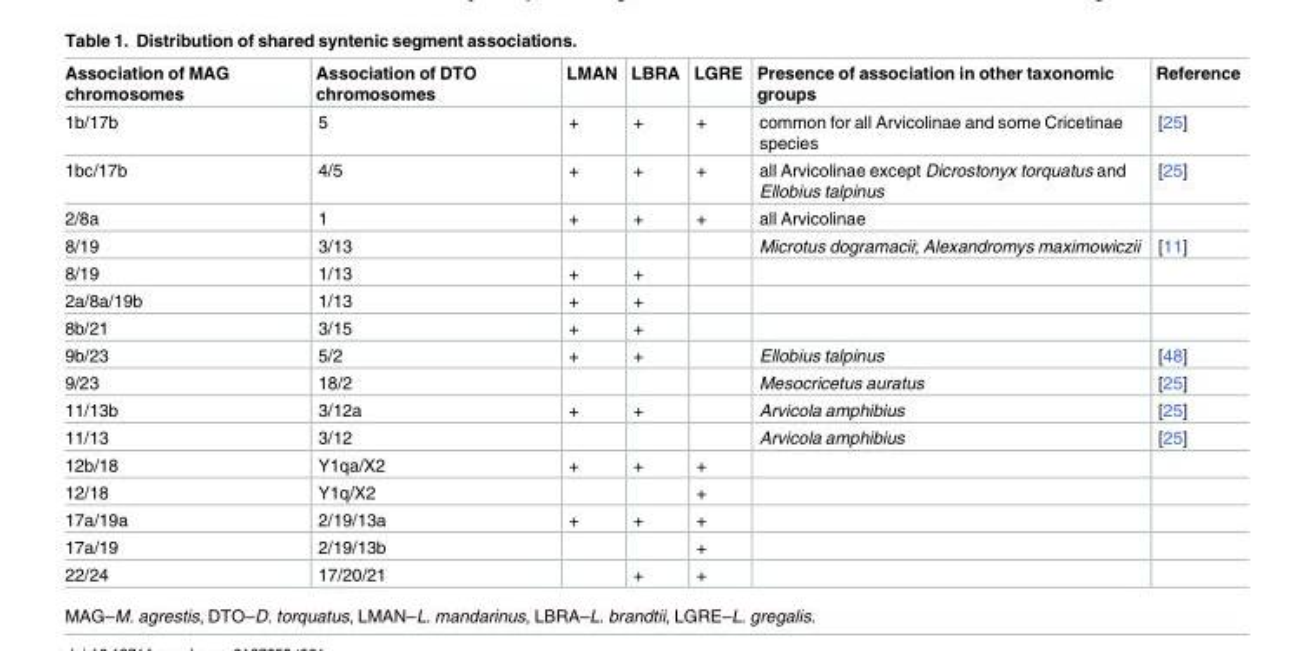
<table><thead><tr><td>Association of MAG chromosomes</td><td>Association of DTO chromosomes</td><td>LMAN</td><td>LBRA</td><td>LGRE</td><td>Presence of association in other taxonomic groups</td><td>Reference</td></tr></thead><tbody><tr><td>1b/17b</td><td>5</td><td>+</td><td>+</td><td>+</td><td>common for all Arvicolinae and some Cricetinae species</td><td>[25]</td></tr><tr><td>1bc/17b</td><td>4/5</td><td>+</td><td>+</td><td>+</td><td>all Arvicolinae except Dicrostonyx torquatus and Ellobius talpinus</td><td>[25]</td></tr><tr><td>2/8a</td><td>1</td><td>+</td><td>+</td><td>+</td><td>all Arvicolinae</td><td></td></tr><tr><td>8/19</td><td>3/13</td><td></td><td></td><td></td><td>Microtus dogramacii; Alexandromys maximowiczii</td><td>[11]</td></tr><tr><td>8/19</td><td>1/13</td><td>+</td><td>+</td><td></td><td></td><td></td></tr><tr><td>2a/8a/19b</td><td>1/13</td><td>+</td><td>+</td><td></td><td></td><td></td></tr><tr><td>8b/21</td><td>3/15</td><td>+</td><td>+</td><td></td><td></td><td></td></tr><tr><td>9b/23</td><td>5/2</td><td>+</td><td>+</td><td></td><td>Ellobius talpinus</td><td>[48]</td></tr><tr><td>9/23</td><td>18/2</td><td></td><td></td><td></td><td>Mesocricetus auratus</td><td>[25]</td></tr><tr><td>11/13b</td><td>3/12a</td><td>+</td><td>+</td><td></td><td>Arvicola amphibius</td><td>[25]</td></tr><tr><td>11/13</td><td>3/12</td><td></td><td></td><td></td><td>Arvicola amphibius</td><td>[25]</td></tr><tr><td>12b/18</td><td>Y1qa/X2</td><td>+</td><td>+</td><td>+</td><td></td><td></td></tr><tr><td>12/18</td><td>Y1q/X2</td><td></td><td></td><td>+</td><td></td><td></td></tr><tr><td>17a/19a</td><td>2/19/13a</td><td>+</td><td>+</td><td>+</td><td></td><td></td></tr><tr><td>17a/19</td><td>2/19/13b</td><td></td><td></td><td>+</td><td></td><td></td></tr><tr><td>22/24</td><td>17/20/21</td><td></td><td>+</td><td>+</td><td></td><td></td></tr></tbody></table>